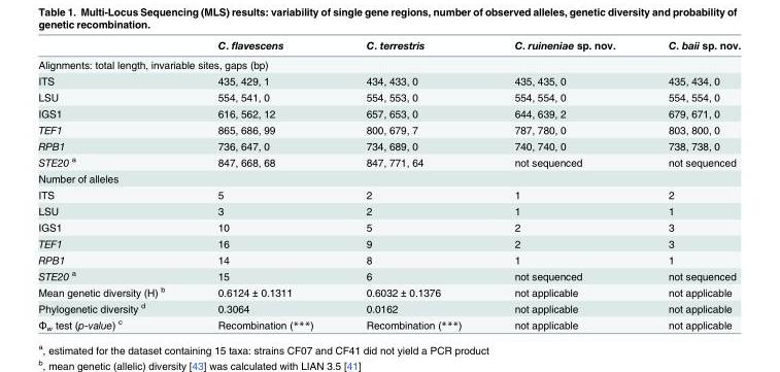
<table><thead><tr><td></td><td>C. flavescens</td><td>C. terrestris</td><td>C. ruineniae sp. nov.</td><td>C. baii sp. nov.</td></tr></thead><tbody><tr><td colspan="5">Alignments: total length, invariable sites, gaps (bp)</td></tr><tr><td>ITS</td><td>435, 429, 1</td><td>434, 433, 0</td><td>435, 435, 0</td><td>435, 434, 0</td></tr><tr><td>LSU</td><td>554, 541, 0</td><td>554, 553, 0</td><td>554, 554, 0</td><td>554, 554, 0</td></tr><tr><td>IGS1</td><td>616, 562, 12</td><td>657, 653, 0</td><td>644, 639, 2</td><td>679, 671, 0</td></tr><tr><td>TEF1</td><td>865, 686, 99</td><td>800, 679, 7</td><td>787, 780, 0</td><td>803, 800, 0</td></tr><tr><td>RPB1</td><td>736, 647, 0</td><td>734, 689, 0</td><td>740, 740, 0</td><td>738, 738, 0</td></tr><tr><td>STE20 <sup>a</sup></td><td>847, 668, 68</td><td>847, 771, 64</td><td>not sequenced</td><td>not sequenced</td></tr><tr><td colspan="5">Number of alleles</td></tr><tr><td>ITS</td><td>5</td><td>2</td><td>1</td><td>2</td></tr><tr><td>LSU</td><td>3</td><td>2</td><td>1</td><td>1</td></tr><tr><td>IGS1</td><td>10</td><td>5</td><td>2</td><td>3</td></tr><tr><td>TEF1</td><td>16</td><td>9</td><td>2</td><td>3</td></tr><tr><td>RPB1</td><td>14</td><td>8</td><td>1</td><td>1</td></tr><tr><td>STE20 <sup>a</sup></td><td>15</td><td>6</td><td>not sequenced</td><td>not sequenced</td></tr><tr><td>Mean genetic diversity (H) <sup>b</sup></td><td>0.6124 ± 0.1311</td><td>0.6032 ± 0.1376</td><td>not applicable</td><td>not applicable</td></tr><tr><td>Phylogenetic diversity <sup>d</sup></td><td>0.3064</td><td>0.0162</td><td>not applicable</td><td>not applicable</td></tr><tr><td>Φ<sub>w</sub> test (p-value) <sup>c</sup></td><td>Recombination (***)</td><td>Recombination (***)</td><td>not applicable</td><td>not applicable</td></tr></tbody></table>